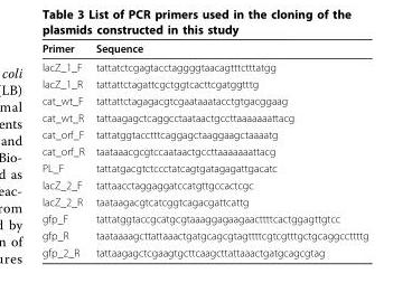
<table><thead><tr><td>Primer</td><td>Sequence</td></tr></thead><tbody><tr><td>lacZ_1_F</td><td>tattatctcgagtacctaggggtaacagtttctttatgg</td></tr><tr><td>lacZ_1_R</td><td>tattattctagattcgctggtcacttcgatggtttg</td></tr><tr><td>cat_wt_F</td><td>tattattctagagacgtcgaataaatacctgtgacggaag</td></tr><tr><td>cat_wt_R</td><td>tattaagagctcaggcctaataactgccttaaaaaaattacg</td></tr><tr><td>cat_orf_F</td><td>tattatggtacctttcaggagctaaggaagctaaaatg</td></tr><tr><td>cat_orf_R</td><td>taataaacgcgtccaataactgccttaaaaaaattacg</td></tr><tr><td>PL_F</td><td>tattatgacgtctccctatcagtgatagagattgacatc</td></tr><tr><td>lacZ_2_F</td><td>tattaacctaggaggatccatgttgccactcgc</td></tr><tr><td>lacZ_2_R</td><td>taataagacgtcatcggtcagacgattcattg</td></tr><tr><td>gfp_F</td><td>tattatggtaccgcatgcgtaaaggagaagaacttttcactggagttgtcc</td></tr><tr><td>gfp_R</td><td>taataaaagcttattaaactgatgcagcgtagttttcgtcgtttgctgcaggccttttg</td></tr><tr><td>gfp_2_R</td><td>tattaagagctcgaagtgcttcaagcttattaaactgatgcagcgtag</td></tr></tbody></table>